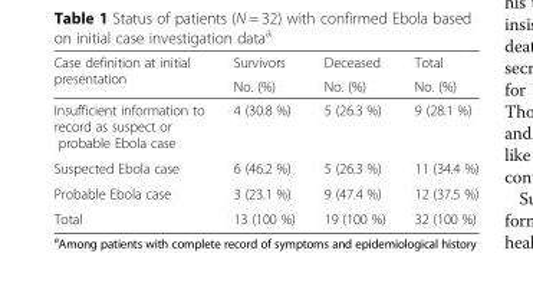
<table><thead><tr><td rowspan="2">Case definition at initial presentation</td><td rowspan="2">Survivors No. (%)</td><td rowspan="2">Deceased No. (%)</td><td rowspan="2">Total No. (%)</td></tr><tr></tr></thead><tbody><tr><td>Insufficient information to record as suspect or probable Ebola case</td><td>4 (30.8 %)</td><td>5 (26.3 %)</td><td>9 (28.1 %)</td></tr><tr><td>Suspected Ebola case</td><td>6 (46.2 %)</td><td>5 (26.3 %)</td><td>11 (34.4 %)</td></tr><tr><td>Probable Ebola case</td><td>3 (23.1 %)</td><td>9 (47.4 %)</td><td>12 (37.5 %)</td></tr><tr><td>Total</td><td>13 (100 %)</td><td>19 (100 %)</td><td>32 (100 %)</td></tr></tbody></table>